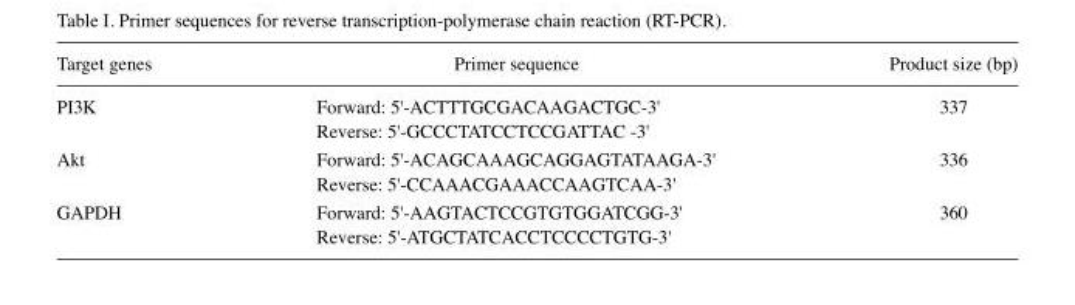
<table><thead><tr><td>Target genes</td><td>Primer sequence</td><td>Product size (bp)</td></tr></thead><tbody><tr><td>PI3K</td><td>Forward: 5&#x27;-ACTTTGCGACAAGACTGC-3&#x27; Reverse: 5&#x27;-GCCCTATCCTCCGATTAC -3&#x27;</td><td>337</td></tr><tr><td>Akt</td><td>Forward: 5&#x27;-ACAGCAAAGCAGGAGTATAAGA-3&#x27; Reverse: 5&#x27;-CCAAACGAAACCAAGTCAA-3&#x27;</td><td>336</td></tr><tr><td>GAPDH</td><td>Forward: 5&#x27;-AAGTACTCCGTGTGGATCGG-3&#x27; Reverse: 5&#x27;-ATGCTATCACCTCCCCTGTG-3&#x27;</td><td>360</td></tr></tbody></table>